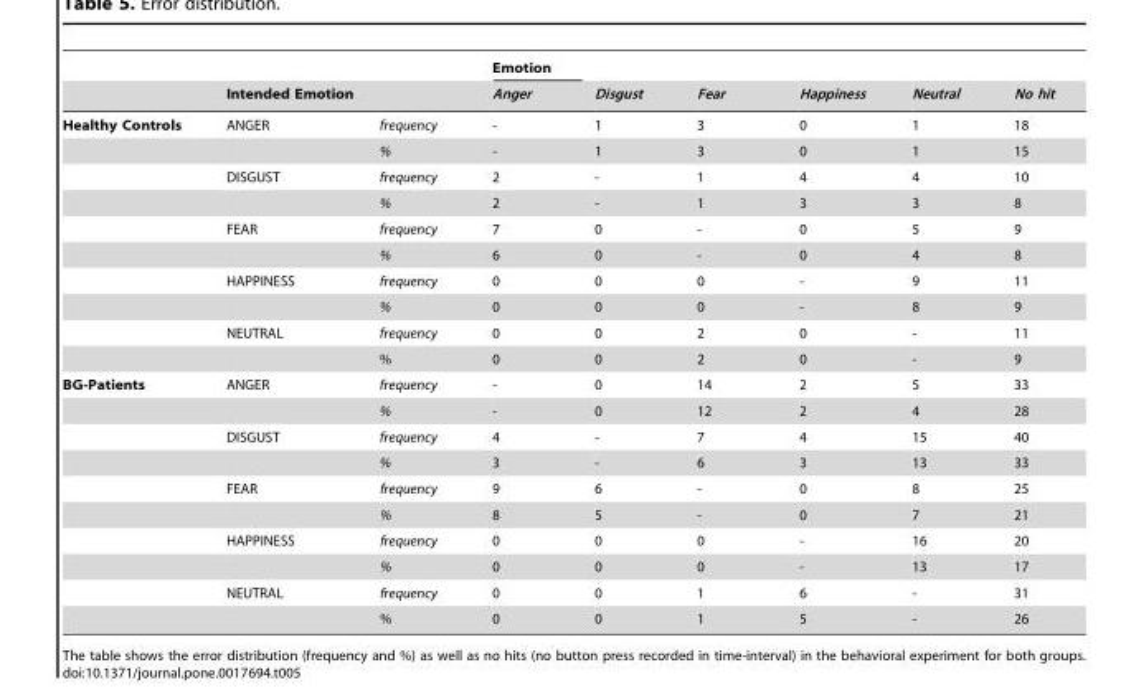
<table><thead><tr><td rowspan="2"></td><td rowspan="2">Intended Emotion</td><td rowspan="2"></td><td rowspan="2">Emotion Anger</td><td rowspan="2">Disgust</td><td rowspan="2">Fear</td><td rowspan="2">Happiness</td><td rowspan="2">Neutral</td><td rowspan="2">No hit</td></tr><tr></tr></thead><tbody><tr><td rowspan="10">Healthy Controls</td><td>ANGER</td><td>frequency</td><td>-</td><td>1</td><td>3</td><td>0</td><td>1</td><td>18</td></tr><tr><td></td><td>%</td><td>-</td><td>1</td><td>3</td><td>0</td><td>1</td><td>15</td></tr><tr><td>DISGUST</td><td>frequency</td><td>2</td><td>-</td><td>1</td><td>4</td><td>4</td><td>10</td></tr><tr><td></td><td>%</td><td>2</td><td>-</td><td>1</td><td>3</td><td>3</td><td>8</td></tr><tr><td>FEAR</td><td>frequency</td><td>7</td><td>0</td><td>-</td><td>0</td><td>5</td><td>9</td></tr><tr><td></td><td>%</td><td>6</td><td>0</td><td>-</td><td>0</td><td>4</td><td>8</td></tr><tr><td>HAPPINESS</td><td>frequency</td><td>0</td><td>0</td><td>0</td><td>-</td><td>9</td><td>11</td></tr><tr><td></td><td>%</td><td>0</td><td>0</td><td>0</td><td>-</td><td>8</td><td>9</td></tr><tr><td>NEUTRAL</td><td>frequency</td><td>0</td><td>0</td><td>2</td><td>0</td><td>-</td><td>11</td></tr><tr><td></td><td>%</td><td>0</td><td>0</td><td>2</td><td>0</td><td>-</td><td>9</td></tr><tr><td rowspan="10">BG-Patients</td><td>ANGER</td><td>frequency</td><td>-</td><td>0</td><td>14</td><td>2</td><td>5</td><td>33</td></tr><tr><td></td><td>%</td><td>-</td><td>0</td><td>12</td><td>2</td><td>4</td><td>28</td></tr><tr><td>DISGUST</td><td>frequency</td><td>4</td><td>-</td><td>7</td><td>4</td><td>15</td><td>40</td></tr><tr><td></td><td>%</td><td>3</td><td>-</td><td>6</td><td>3</td><td>13</td><td>33</td></tr><tr><td>FEAR</td><td>frequency</td><td>9</td><td>6</td><td>-</td><td>0</td><td>8</td><td>25</td></tr><tr><td></td><td>%</td><td>8</td><td>5</td><td>-</td><td>0</td><td>7</td><td>21</td></tr><tr><td>HAPPINESS</td><td>frequency</td><td>0</td><td>0</td><td>0</td><td>-</td><td>16</td><td>20</td></tr><tr><td></td><td>%</td><td>0</td><td>0</td><td>0</td><td>-</td><td>13</td><td>17</td></tr><tr><td>NEUTRAL</td><td>frequency</td><td>0</td><td>0</td><td>1</td><td>6</td><td>-</td><td>31</td></tr><tr><td></td><td>%</td><td>0</td><td>0</td><td>1</td><td>5</td><td>-</td><td>26</td></tr></tbody></table>